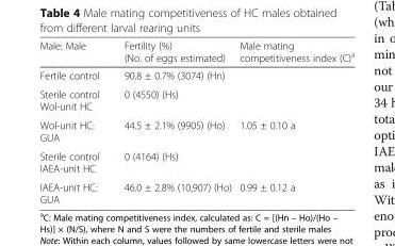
<table><thead><tr><td>Male: Male</td><td>Fertility (%) (No. of eggs estimated)</td><td>Male mating competitiveness index (C)<sup>a</sup></td></tr></thead><tbody><tr><td>Fertile control</td><td>90.8 ± 0.7% (3074) (Hn)</td><td></td></tr><tr><td>Sterile control Wol-unit HC</td><td>0 (4550) (Hs)</td><td></td></tr><tr><td>Wol-unit HC: GUA</td><td>44.5 ± 2.1% (9905) (Ho)</td><td>1.05 ± 0.10 a</td></tr><tr><td>Sterile control IAEA-unit HC</td><td>0 (4164) (Hs)</td><td></td></tr><tr><td>IAEA-unit HC: GUA</td><td>46.0 ± 2.8% (10,907) (Ho)</td><td>0.99 ± 0.12 a</td></tr></tbody></table>